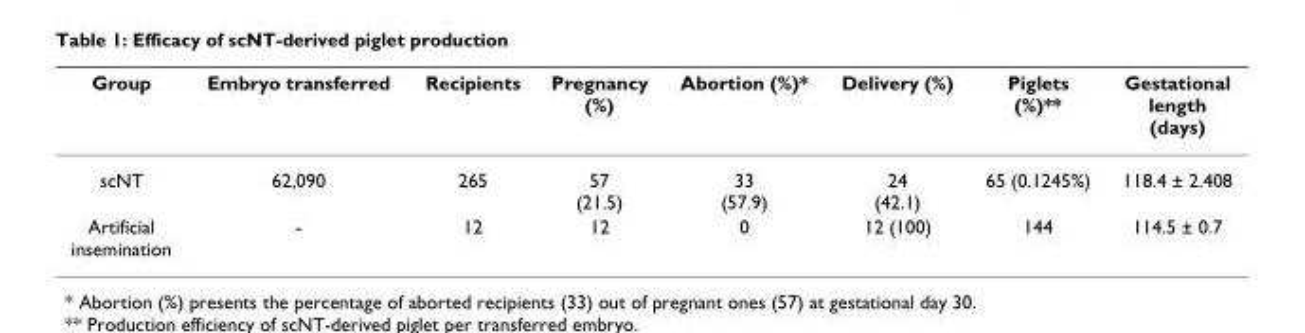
<table><thead><tr><td>Group</td><td>Embryo transferred</td><td>Recipients</td><td>Pregnancy (%)</td><td>Abortion (%)*</td><td>Delivery (%)</td><td>Piglets (%)**</td><td>Gestational length (days)</td></tr></thead><tbody><tr><td>scNT</td><td>62,090</td><td>265</td><td>57 (21.5)</td><td>33 (57.9)</td><td>24 (42.1)</td><td>65 (0.1245%)</td><td>118.4 ± 2.408</td></tr><tr><td>Artificial insemination</td><td>-</td><td>12</td><td>12</td><td>0</td><td>12 (100)</td><td>144</td><td>114.5 ± 0.7</td></tr></tbody></table>